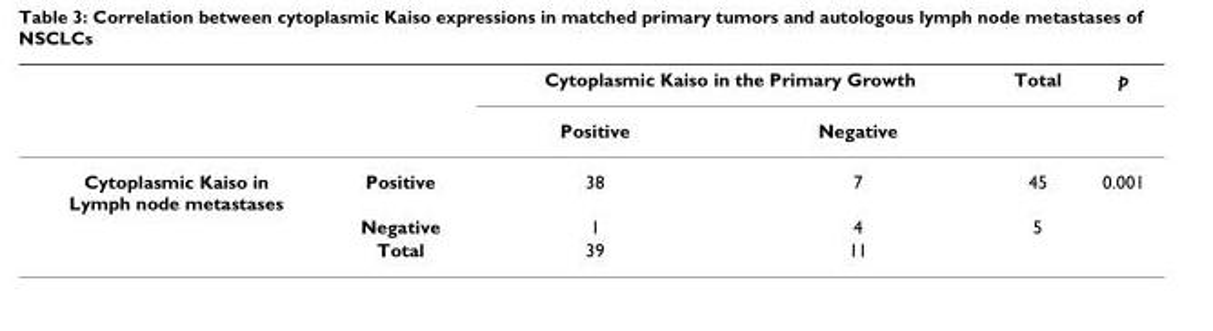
<table><thead><tr><td rowspan="2"></td><td rowspan="2"></td><td colspan="2">Cytoplasmic Kaiso in the Primary Growth</td><td rowspan="2">Total</td><td rowspan="2">p</td></tr><tr><td>Positive</td><td>Negative</td></tr></thead><tbody><tr><td rowspan="3">Cytoplasmic Kaiso in Lymph node metastases</td><td>Positive</td><td>38</td><td>7</td><td>45</td><td>0.001</td></tr><tr><td>Negative</td><td>1</td><td>4</td><td>5</td><td></td></tr><tr><td>Total</td><td>39</td><td>11</td><td></td><td></td></tr></tbody></table>